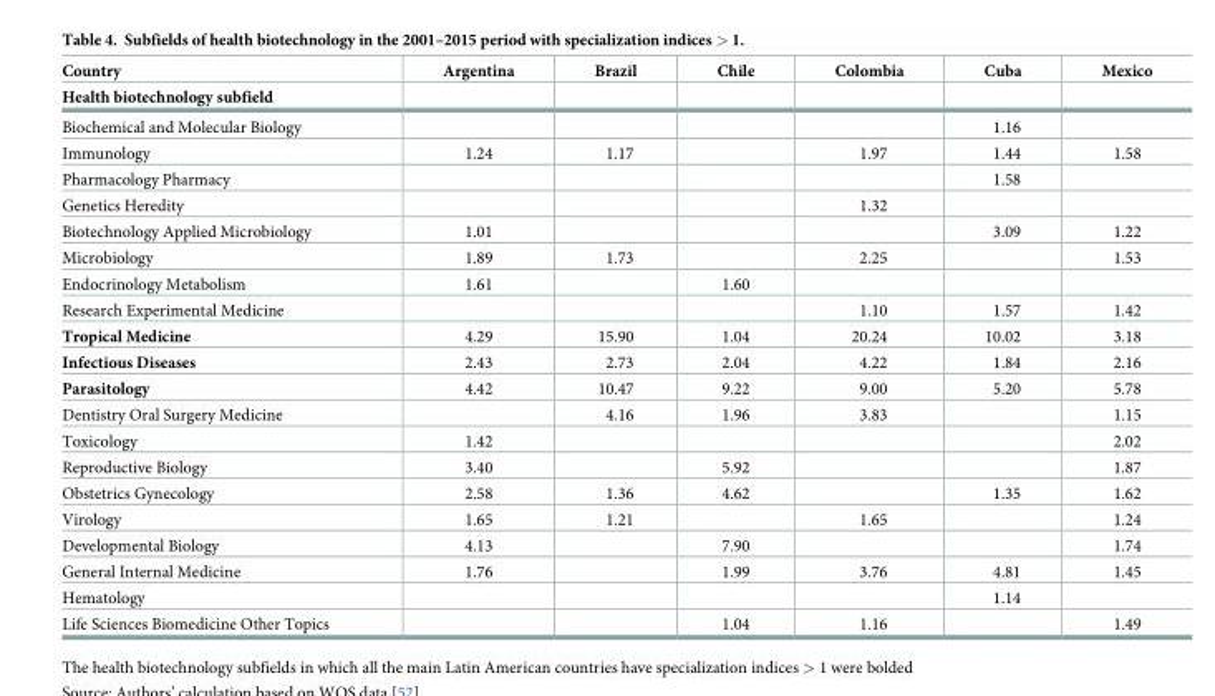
<table><thead><tr><td rowspan="2">Country Health biotechnology subfield</td><td rowspan="2">Argentina</td><td rowspan="2">Brazil</td><td rowspan="2">Chile</td><td rowspan="2">Colombia</td><td rowspan="2">Cuba</td><td rowspan="2">Mexico</td></tr><tr></tr></thead><tbody><tr><td>Biochemical and Molecular Biology</td><td></td><td></td><td></td><td></td><td>1.16</td><td></td></tr><tr><td>Immunology</td><td>1.24</td><td>1.17</td><td></td><td>1.97</td><td>1.44</td><td>1.58</td></tr><tr><td>Pharmacology Pharmacy</td><td></td><td></td><td></td><td></td><td>1.58</td><td></td></tr><tr><td>Genetics Heredity</td><td></td><td></td><td></td><td>1.32</td><td></td><td></td></tr><tr><td>Biotechnology Applied Microbiology</td><td>1.01</td><td></td><td></td><td></td><td>3.09</td><td>1.22</td></tr><tr><td>Microbiology</td><td>1.89</td><td>1.73</td><td></td><td>2.25</td><td></td><td>1.53</td></tr><tr><td>Endocrinology Metabolism</td><td>1.61</td><td></td><td>1.60</td><td></td><td></td><td></td></tr><tr><td>Research Experimental Medicine</td><td></td><td></td><td></td><td>1.10</td><td>1.57</td><td>1.42</td></tr><tr><td>Tropical Medicine</td><td>4.29</td><td>15.90</td><td>1.04</td><td>20.24</td><td>10.02</td><td>3.18</td></tr><tr><td>Infectious Diseases</td><td>2.43</td><td>2.73</td><td>2.04</td><td>4.22</td><td>1.84</td><td>2.16</td></tr><tr><td>Parasitology</td><td>4.42</td><td>10.47</td><td>9.22</td><td>9.00</td><td>5.20</td><td>5.78</td></tr><tr><td>Dentistry Oral Surgery Medicine</td><td></td><td>4.16</td><td>1.96</td><td>3.83</td><td></td><td>1.15</td></tr><tr><td>Toxicology</td><td>1.42</td><td></td><td></td><td></td><td></td><td>2.02</td></tr><tr><td>Reproductive Biology</td><td>3.40</td><td></td><td>5.92</td><td></td><td></td><td>1.87</td></tr><tr><td>Obstetrics Gynecology</td><td>2.58</td><td>1.36</td><td>4.62</td><td></td><td>1.35</td><td>1.62</td></tr><tr><td>Virology</td><td>1.65</td><td>1.21</td><td></td><td>1.65</td><td></td><td>1.24</td></tr><tr><td>Developmental Biology</td><td>4.13</td><td></td><td>7.90</td><td></td><td></td><td>1.74</td></tr><tr><td>General Internal Medicine</td><td>1.76</td><td></td><td>1.99</td><td>3.76</td><td>4.81</td><td>1.45</td></tr><tr><td>Hematology</td><td></td><td></td><td></td><td></td><td>1.14</td><td></td></tr><tr><td>Life Sciences Biomedicine Other Topics</td><td></td><td></td><td>1.04</td><td>1.16</td><td></td><td>1.49</td></tr></tbody></table>